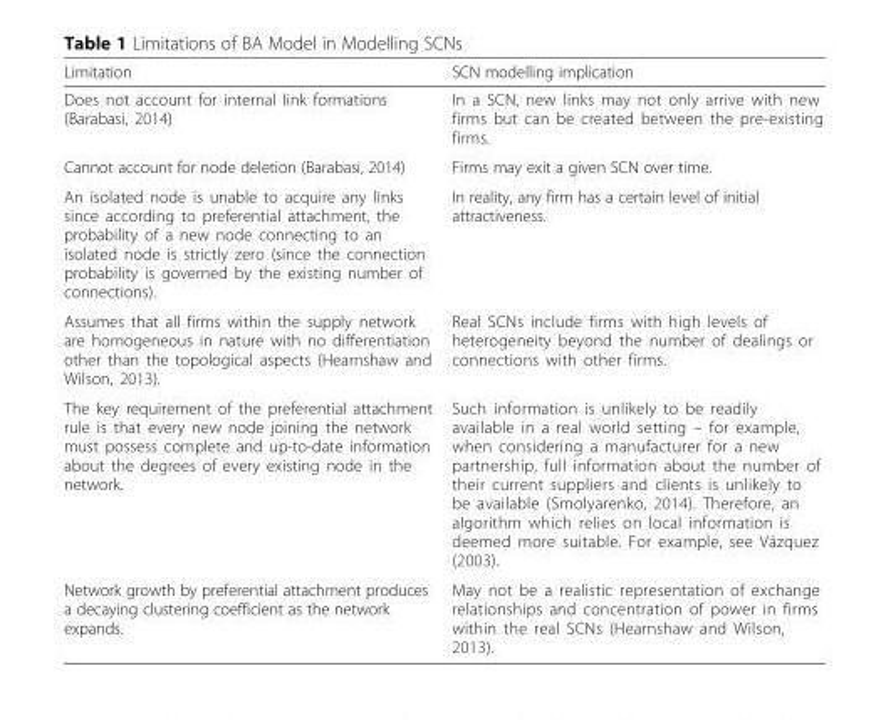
<table><thead><tr><td>Limitation</td><td>SCN modelling implication</td></tr></thead><tbody><tr><td>Does not account for internal link formations (Barabasi, 2014)</td><td>In a SCN, new links may not only arrive with new firms but can be created between the pre-existing firms.</td></tr><tr><td>Cannot account for node deletion (Barabasi, 2014)</td><td>Firms may exit a given SCN over time.</td></tr><tr><td>An isolated node is unable to acquire any links since according to preferential attachment, the probability of a new node connecting to an isolated node is strictly zero (since the connection probability is governed by the existing number of connections).</td><td>In reality, any firm has a certain level of initial attractiveness.</td></tr><tr><td>Assumes that all firms within the supply network are homogeneous in nature with no differentiation other than the topological aspects (Hearnshaw and Wilson, 2013).</td><td>Real SCNs include firms with high levels of heterogeneity beyond the number of dealings or connections with other firms.</td></tr><tr><td>The key requirement of the preferential attachment rule is that every new node joining the network must possess complete and up-to-date information about the degrees of every existing node in the network.</td><td>Such information is unlikely to be readily available in a real world setting – for example, when considering a manufacturer for a new partnership, full information about the number of their current suppliers and clients is unlikely to be available (Smolyarenko, 2014). Therefore, an algorithm which relies on local information is deemed more suitable. For example, see Vázquez (2003).</td></tr><tr><td>Network growth by preferential attachment produces a decaying clustering coefficient as the network expands.</td><td>May not be a realistic representation of exchange relationships and concentration of power in firms within the real SCNs (Hearnshaw and Wilson, 2013).</td></tr></tbody></table>